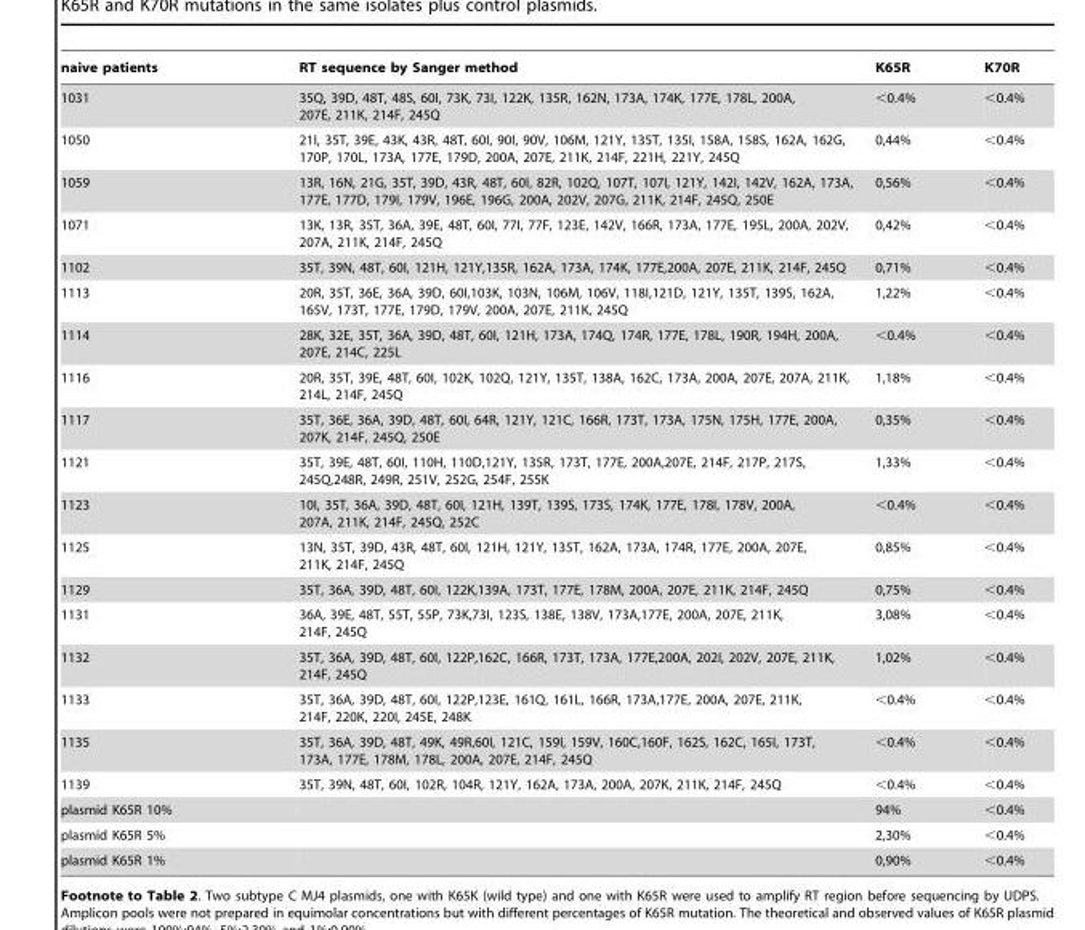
<table><thead><tr><td>naive patients</td><td>RT sequence by Sanger method</td><td>K65R</td><td>K70R</td></tr></thead><tbody><tr><td>1031</td><td>35Q, 39D, 48T, 48S, 60I, 73K, 73I, 122K, 135R, 162N, 173A, 174K, 177E, 178L, 200A, 207E, 211K, 214F, 245Q</td><td>&lt;0.4%</td><td>&lt;0.4%</td></tr><tr><td>1050</td><td>21I, 35T, 39E, 43K, 43R, 48T, 60I, 90I, 90V, 106M, 121Y, 135T, 135I, 158A, 158S, 162A, 162G, 170P, 170L, 173A, 177E, 179D, 200A, 207E, 211K, 214F, 221H, 221Y, 245Q</td><td>0,44%</td><td>&lt;0.4%</td></tr><tr><td>1059</td><td>13R, 16N, 21G, 35T, 39D, 43R, 48T, 60I, 82R, 102Q, 107T, 107I, 121Y, 142I, 142V, 162A, 173A, 177E, 177D, 179I, 179V, 196E, 196G, 200A, 202V, 207G, 211K, 214F, 245Q, 250E</td><td>0,56%</td><td>&lt;0.4%</td></tr><tr><td>1071</td><td>13K, 13R, 35T, 36A, 39E, 48T, 60I, 77I, 77F, 123E, 142V, 166R, 173A, 177E, 195L, 200A, 202V, 207A, 211K, 214F, 245Q</td><td>0,42%</td><td>&lt;0.4%</td></tr><tr><td>1102</td><td>35T, 39N, 48T, 60I, 121H, 121Y,135R, 162A, 173A, 174K, 177E,200A, 207E, 211K, 214F, 245Q</td><td>0,71%</td><td>&lt;0.4%</td></tr><tr><td>1113</td><td>20R, 35T, 36E, 36A, 39D, 60I,103K, 103N, 106M, 106V, 118I,121D, 121Y, 135T, 139S, 162A, 165V, 173T, 177E, 179D, 179V, 200A, 207E, 211K, 245Q</td><td>1,22%</td><td>&lt;0.4%</td></tr><tr><td>1114</td><td>28K, 32E, 35T, 36A, 39D, 48T, 60I, 121H, 173A, 174Q, 174R, 177E, 178L, 190R, 194H, 200A, 207E, 214C, 225L</td><td>&lt;0.4%</td><td>&lt;0.4%</td></tr><tr><td>1116</td><td>20R, 35T, 39E, 48T, 60I, 102K, 102Q, 121Y, 135T, 138A, 162C, 173A, 200A, 207E, 207A, 211K, 214L, 214F, 245Q</td><td>1,18%</td><td>&lt;0.4%</td></tr><tr><td>1117</td><td>35T, 36E, 36A, 39D, 48T, 60I, 64R, 121Y, 121C, 166R, 173T, 173A, 175N, 175H, 177E, 200A, 207K, 214F, 245Q, 250E</td><td>0,35%</td><td>&lt;0.4%</td></tr><tr><td>1121</td><td>35T, 39E, 48T, 60I, 110H, 110D,121Y, 135R, 173T, 177E, 200A,207E, 214F, 217P, 217S, 245Q,248R, 249R, 251V, 252G, 254F, 255K</td><td>1,33%</td><td>&lt;0.4%</td></tr><tr><td>1123</td><td>10I, 35T, 36A, 39D, 48T, 60I, 121H, 139T, 139S, 173S, 174K, 177E, 178I, 178V, 200A, 207A, 211K, 214F, 245Q, 252C</td><td>&lt;0.4%</td><td>&lt;0.4%</td></tr><tr><td>1125</td><td>13N, 35T, 39D, 43R, 48T, 60I, 121H, 121Y, 135T, 162A, 173A, 174R, 177E, 200A, 207E, 211K, 214F, 245Q</td><td>0,85%</td><td>&lt;0.4%</td></tr><tr><td>1129</td><td>35T, 36A, 39D, 48T, 60I, 122K,139A, 173T, 177E, 178M, 200A, 207E, 211K, 214F, 245Q</td><td>0,75%</td><td>&lt;0.4%</td></tr><tr><td>1131</td><td>36A, 39E, 48T, 55T, 55P, 73K,73I, 123S, 138E, 138V, 173A,177E, 200A, 207E, 211K, 214F, 245Q</td><td>3,08%</td><td>&lt;0.4%</td></tr><tr><td>1132</td><td>35T, 36A, 39D, 48T, 60I, 122P,162C, 166R, 173T, 173A, 177E,200A, 202I, 202V, 207E, 211K, 214F, 245Q</td><td>1,02%</td><td>&lt;0.4%</td></tr><tr><td>1133</td><td>35T, 36A, 39D, 48T, 60I, 122P,123E, 161Q, 161L, 166R, 173A,177E, 200A, 207E, 211K, 214F, 220K, 220I, 245E, 248K</td><td>&lt;0.4%</td><td>&lt;0.4%</td></tr><tr><td>1135</td><td>35T, 36A, 39D, 48T, 49K, 49R,60I, 121C, 159I, 159V, 160C,160F, 162S, 162C, 165I, 173T, 173A, 177E, 178M, 178L, 200A, 207E, 214F, 245Q</td><td>&lt;0.4%</td><td>&lt;0.4%</td></tr><tr><td>1139</td><td>35T, 39N, 48T, 60I, 102R, 104R, 121Y, 162A, 173A, 200A, 207K, 211K, 214F, 245Q</td><td>&lt;0.4%</td><td>&lt;0.4%</td></tr><tr><td>plasmid K65R 10%</td><td></td><td>94%</td><td>&lt;0.4%</td></tr><tr><td>plasmid K65R 5%</td><td></td><td>2,30%</td><td>&lt;0.4%</td></tr><tr><td>plasmid K65R 1%</td><td></td><td>0,90%</td><td>&lt;0.4%</td></tr></tbody></table>